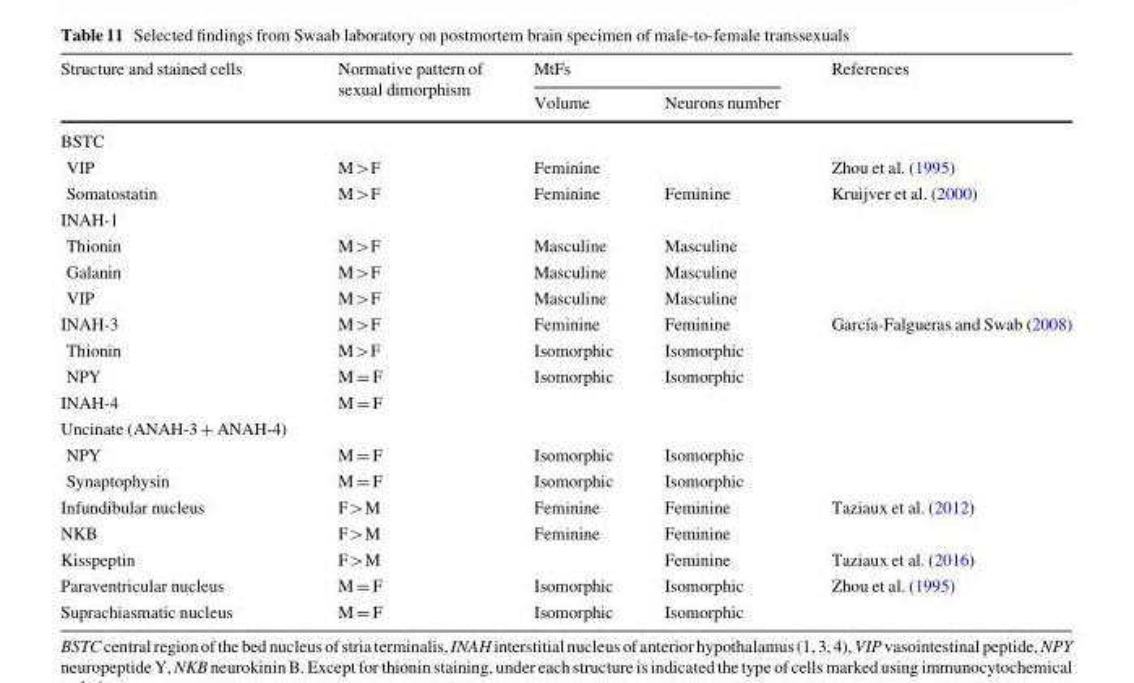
<table><thead><tr><td rowspan="2">Structure and stained cells</td><td rowspan="2">Normative pattern of sexual dimorphism</td><td colspan="2">MtFs</td><td rowspan="2">References</td></tr><tr><td>Volume</td><td>Neurons number</td></tr></thead><tbody><tr><td colspan="5">BSTC</td></tr><tr><td>VIP</td><td>M&gt;F</td><td>Feminine</td><td></td><td>Zhou et al. (1995)</td></tr><tr><td>Somatostatin</td><td>M&gt;F</td><td>Feminine</td><td>Feminine</td><td>Kruijver et al. (2000)</td></tr><tr><td colspan="5">INAH-1</td></tr><tr><td>Thionin</td><td>M&gt;F</td><td>Masculine</td><td>Masculine</td><td></td></tr><tr><td>Galanin</td><td>M&gt;F</td><td>Masculine</td><td>Masculine</td><td></td></tr><tr><td>VIP</td><td>M&gt;F</td><td>Masculine</td><td>Masculine</td><td></td></tr><tr><td>INAH-3</td><td>M&gt;F</td><td>Feminine</td><td>Feminine</td><td>Garcı´a-Falgueras and Swab (2008)</td></tr><tr><td>Thionin</td><td>M&gt;F</td><td>Isomorphic</td><td>Isomorphic</td><td></td></tr><tr><td>NPY</td><td>M = F</td><td>Isomorphic</td><td>Isomorphic</td><td></td></tr><tr><td>INAH-4</td><td>M = F</td><td></td><td></td><td></td></tr><tr><td colspan="5">Uncinate (ANAH-3 + ANAH-4)</td></tr><tr><td>NPY</td><td>M = F</td><td>Isomorphic</td><td>Isomorphic</td><td></td></tr><tr><td>Synaptophysin</td><td>M = F</td><td>Isomorphic</td><td>Isomorphic</td><td></td></tr><tr><td>Infundibular nucleus</td><td>F&gt;M</td><td>Feminine</td><td>Feminine</td><td>Taziaux et al. (2012)</td></tr><tr><td>NKB</td><td>F&gt;M</td><td>Feminine</td><td>Feminine</td><td></td></tr><tr><td>Kisspeptin</td><td>F&gt;M</td><td></td><td>Feminine</td><td>Taziaux et al. (2016)</td></tr><tr><td>Paraventricular nucleus</td><td>M = F</td><td>Isomorphic</td><td>Isomorphic</td><td>Zhou et al. (1995)</td></tr><tr><td>Suprachiasmatic nucleus</td><td>M = F</td><td>Isomorphic</td><td>Isomorphic</td><td></td></tr></tbody></table>